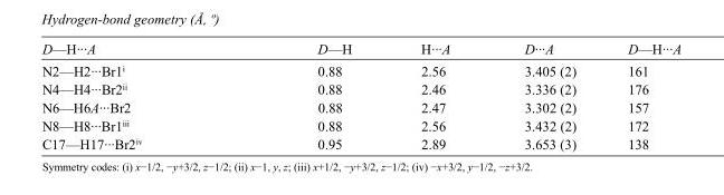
<table><tbody><tr><td>D—H···A</td><td>D—H</td><td>H···A</td><td>D···A</td><td>D—H···A</td></tr><tr><td>N2—H2···Br1<sup>i</sup></td><td>0.88</td><td>2.56</td><td>3.405 (2)</td><td>161</td></tr><tr><td>N4—H4···Br2<sup>ii</sup></td><td>0.88</td><td>2.46</td><td>3.336 (2)</td><td>176</td></tr><tr><td>N6—H6A···Br2</td><td>0.88</td><td>2.47</td><td>3.302 (2)</td><td>157</td></tr><tr><td>N8—H8···Br1<sup>iii</sup></td><td>0.88</td><td>2.56</td><td>3.432 (2)</td><td>172</td></tr><tr><td>C17—H17···Br2<sup>iv</sup></td><td>0.95</td><td>2.89</td><td>3.653 (3)</td><td>138</td></tr></tbody></table>